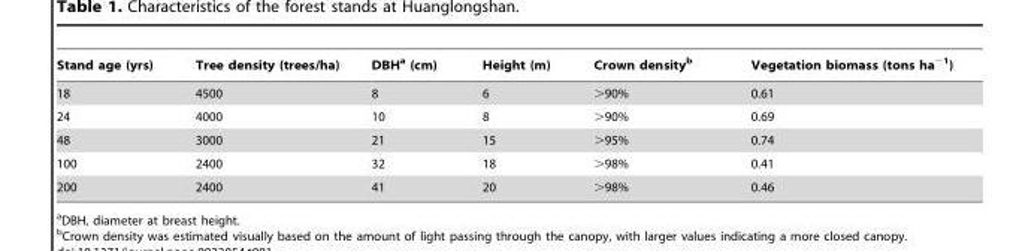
<table><thead><tr><td>Stand age (yrs)</td><td>Tree density (trees/ha)</td><td>DBH<sup>a</sup> (cm)</td><td>Height (m)</td><td>Crown density<sup>b</sup></td><td>Vegetation biomass (tons ha<sup>−1</sup>)</td></tr></thead><tbody><tr><td>18</td><td>4500</td><td>8</td><td>6</td><td>&gt;90%</td><td>0.61</td></tr><tr><td>24</td><td>4000</td><td>10</td><td>8</td><td>&gt;90%</td><td>0.69</td></tr><tr><td>48</td><td>3000</td><td>21</td><td>15</td><td>&gt;95%</td><td>0.74</td></tr><tr><td>100</td><td>2400</td><td>32</td><td>18</td><td>&gt;98%</td><td>0.41</td></tr><tr><td>200</td><td>2400</td><td>41</td><td>20</td><td>&gt;98%</td><td>0.46</td></tr></tbody></table>